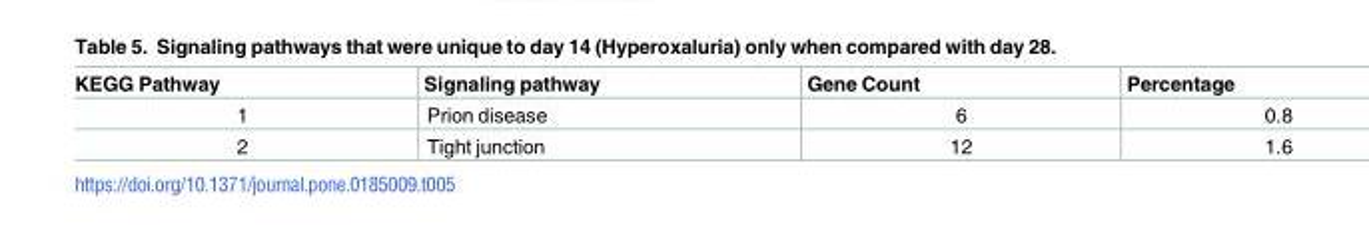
<table><thead><tr><td>KEGG Pathway</td><td>Signaling pathway</td><td>Gene Count</td><td>Percentage</td></tr></thead><tbody><tr><td>1</td><td>Prion disease</td><td>6</td><td>0.8</td></tr><tr><td>2</td><td>Tight junction</td><td>12</td><td>1.6</td></tr></tbody></table>